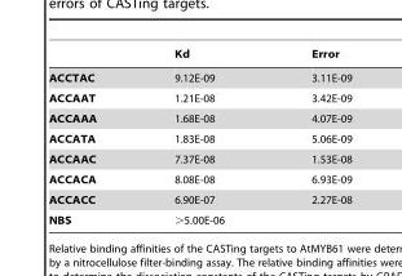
<table><thead><tr><td></td><td>Kd</td><td>Error</td></tr></thead><tbody><tr><td>ACCTAC</td><td>9.12E-09</td><td>3.11E-09</td></tr><tr><td>ACCAAT</td><td>1.21E-08</td><td>3.42E-09</td></tr><tr><td>ACCAAA</td><td>1.68E-08</td><td>4.07E-09</td></tr><tr><td>ACCATA</td><td>1.83E-08</td><td>5.06E-09</td></tr><tr><td>ACCAAC</td><td>7.37E-08</td><td>1.53E-08</td></tr><tr><td>ACCACA</td><td>8.08E-08</td><td>6.93E-09</td></tr><tr><td>ACCACC</td><td>6.90E-07</td><td>2.27E-08</td></tr><tr><td>NBS</td><td>&gt;5.00E-06</td><td></td></tr></tbody></table>